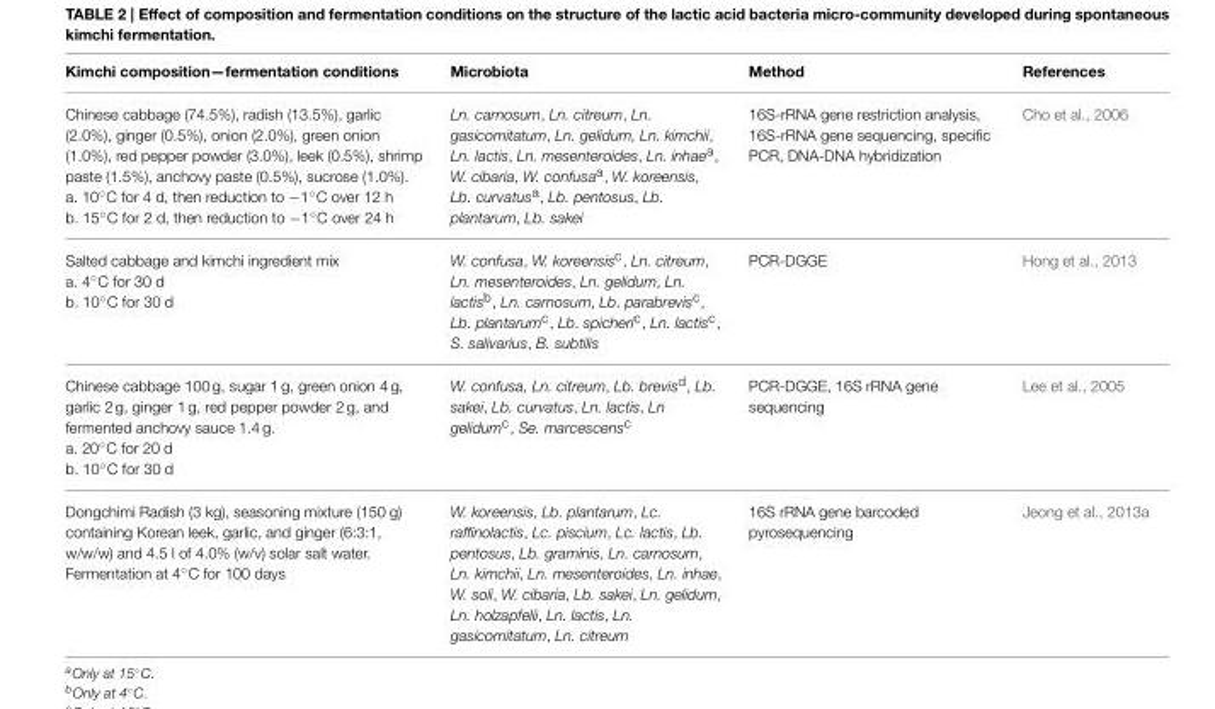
<table><thead><tr><td>Kimchi composition—fermentation conditions</td><td>Microbiota</td><td>Method</td><td>References</td></tr></thead><tbody><tr><td>Chinese cabbage (74.5%), radish (13.5%), garlic (2.0%), ginger (0.5%), onion (2.0%), green onion (1.0%), red pepper powder (3.0%), leek (0.5%), shrimp paste (1.5%), anchovy paste (0.5%), sucrose (1.0%). a. 10◦C for 4 d, then reduction to −1◦C over 12 h b. 15◦C for 2 d, then reduction to −1◦C over 24 h</td><td>Ln. carnosum, Ln. citreum, Ln. gasicomitatum, Ln. gelidum, Ln. kimchii, Ln. lactis, Ln. mesenteroides, Ln. inhae<sup>a</sup>, W. cibaria, W. confusa<sup>a</sup>, W. koreensis, Lb. curvatus<sup>a</sup>, Lb. pentosus, Lb. plantarum, Lb. sakei</td><td>16S-rRNA gene restriction analysis, 16S-rRNA gene sequencing, specific PCR, DNA-DNA hybridization</td><td>Cho et al., 2006</td></tr><tr><td>Salted cabbage and kimchi ingredient mix a. 4◦C for 30 d b. 10◦C for 30 d</td><td>W. confusa, W. koreensis<sup>c</sup>, Ln. citreum, Ln. mesenteroides, Ln. gelidum, Ln. lactis<sup>b</sup>, Ln. carnosum, Lb. parabrevis<sup>c</sup>, Lb. plantarum<sup>c</sup>, Lb. spicheri<sup>c</sup>, Ln. lactis<sup>c</sup>, S. salivarius, B. subtilis</td><td>PCR-DGGE</td><td>Hong et al., 2013</td></tr><tr><td>Chinese cabbage 100 g, sugar 1 g, green onion 4 g, garlic 2 g, ginger 1 g, red pepper powder 2 g, and fermented anchovy sauce 1.4 g. a. 20◦C for 20 d b. 10◦C for 30 d</td><td>W. confusa, Ln. citreum, Lb. brevis<sup>d</sup>, Lb. sakei, Lb. curvatus, Ln. lactis, Ln gelidum<sup>c</sup>, Se. marcescens<sup>c</sup></td><td>PCR-DGGE, 16S rRNA gene sequencing</td><td>Lee et al., 2005</td></tr><tr><td>Dongchimi Radish (3 kg), seasoning mixture (150 g) containing Korean leek, garlic, and ginger (6:3:1, w/w/w) and 4.5 l of 4.0% (w/v) solar salt water. Fermentation at 4◦C for 100 days</td><td>W. koreensis, Lb. plantarum, Lc. raffinolactis, Lc. piscium, Lc. lactis, Lb. pentosus, Lb. graminis, Ln. carnosum, Ln. kimchii, Ln. mesenteroides, Ln. inhae, W. soli, W. cibaria, Lb. sakei, Ln. gelidum, Ln. holzapfelii, Ln. lactis, Ln. gasicomitatum, Ln. citreum</td><td>16S rRNA gene barcoded pyrosequencing</td><td>Jeong et al., 2013a</td></tr></tbody></table>